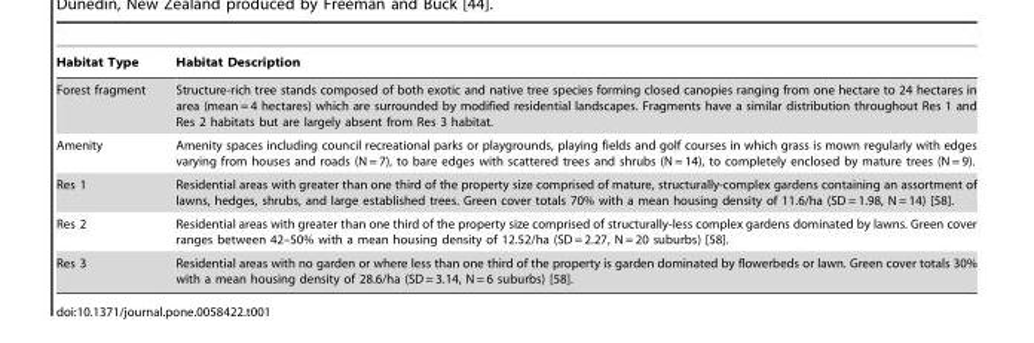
<table><thead><tr><td>Habitat Type</td><td>Habitat Description</td></tr></thead><tbody><tr><td>Forest fragment</td><td>Structure-rich tree stands composed of both exotic and native tree species forming closed canopies ranging from one hectare to 24 hectares in area (mean = 4 hectares) which are surrounded by modified residential landscapes. Fragments have a similar distribution throughout Res 1 and Res 2 habitats but are largely absent from Res 3 habitat.</td></tr><tr><td>Amenity</td><td>Amenity spaces including council recreational parks or playgrounds, playing fields and golf courses in which grass is mown regularly with edges varying from houses and roads (N = 7), to bare edges with scattered trees and shrubs (N = 14), to completely enclosed by mature trees (N = 9).</td></tr><tr><td>Res 1</td><td>Residential areas with greater than one third of the property size comprised of mature, structurally-complex gardens containing an assortment of lawns, hedges, shrubs, and large established trees. Green cover totals 70% with a mean housing density of 11.6/ha (SD = 1.98, N = 14) [58].</td></tr><tr><td>Res 2</td><td>Residential areas with greater than one third of the property size comprised of structurally-less complex gardens dominated by lawns. Green cover ranges between 42–50% with a mean housing density of 12.52/ha (SD = 2.27, N = 20 suburbs) [58].</td></tr><tr><td>Res 3</td><td>Residential areas with no garden or where less than one third of the property is garden dominated by flowerbeds or lawn. Green cover totals 30% with a mean housing density of 28.6/ha (SD = 3.14, N = 6 suburbs) [58].</td></tr></tbody></table>